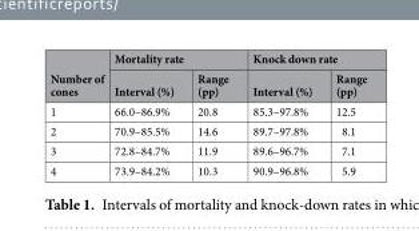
<table><thead><tr><td rowspan="2">Number of cones</td><td colspan="2">Mortality rate</td><td colspan="2">Knock down rate</td></tr><tr><td>Interval (%)</td><td>Range (pp)</td><td>Interval (%)</td><td>Range (pp)</td></tr></thead><tbody><tr><td>1</td><td>66.0–86.9%</td><td>20.8</td><td>85.3–97.8%</td><td>12.5</td></tr><tr><td>2</td><td>70.9–85.5%</td><td>14.6</td><td>89.7–97.8%</td><td>8.1</td></tr><tr><td>3</td><td>72.8–84.7%</td><td>11.9</td><td>89.6–96.7%</td><td>7.1</td></tr><tr><td>4</td><td>73.9–84.2%</td><td>10.3</td><td>90.9–96.8%</td><td>5.9</td></tr></tbody></table>